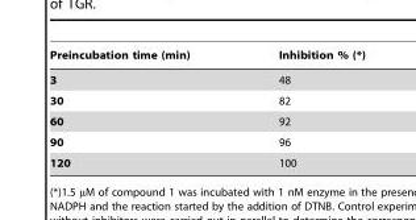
<table><thead><tr><td>Preincubation time (min)</td><td>Inhibition % (*)</td></tr></thead><tbody><tr><td>3</td><td>48</td></tr><tr><td>30</td><td>82</td></tr><tr><td>60</td><td>92</td></tr><tr><td>90</td><td>96</td></tr><tr><td>120</td><td>100</td></tr></tbody></table>